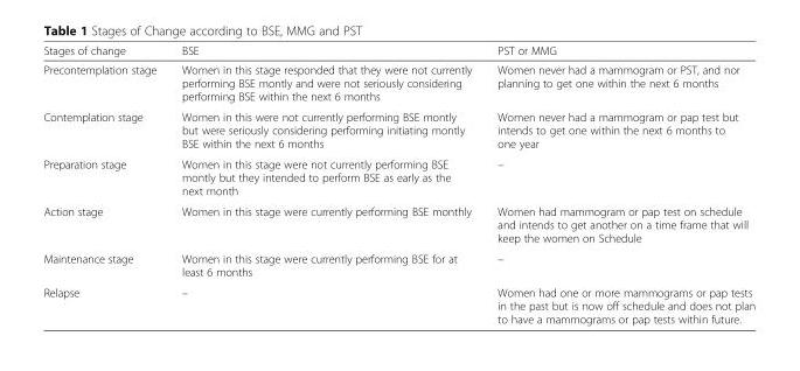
<table><thead><tr><td>Stages of change</td><td>BSE</td><td>PST or MMG</td></tr></thead><tbody><tr><td>Precontemplation stage</td><td>Women in this stage responded that they were not currently performing BSE montly and were not seriously considering performing BSE within the next 6 months</td><td>Women never had a mammogram or PST, and nor planning to get one within the next 6 months</td></tr><tr><td>Contemplation stage</td><td>Women in this were not currently performing BSE montly but were seriously considering performing initiating montly BSE within the next 6 months</td><td>Women never had a mammogram or pap test but intends to get one within the next 6 months to one year</td></tr><tr><td>Preparation stage</td><td>Women in this stage were not currently performing BSE montly but they intended to perform BSE as early as the next month</td><td>–</td></tr><tr><td>Action stage</td><td>Women in this stage were currently performing BSE monthly</td><td>Women had mammogram or pap test on schedule and intends to get another on a time frame that will keep the women on Schedule</td></tr><tr><td>Maintenance stage</td><td>Women in this stage were currently performing BSE for at least 6 months</td><td>–</td></tr><tr><td>Relapse</td><td>–</td><td>Women had one or more mammograms or pap tests in the past but is now off schedule and does not plan to have a mammograms or pap tests within future.</td></tr></tbody></table>